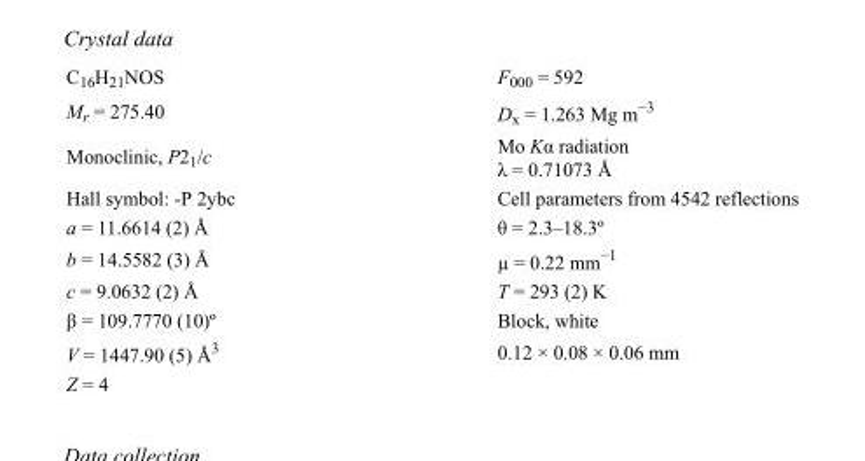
<table><tbody><tr><td>C<sub>16</sub>H<sub>21</sub>NOS</td><td>F<sub>000</sub> = 592</td></tr><tr><td>M<sub>r</sub> = 275.40</td><td>D<sub>x</sub> = 1.263 Mg m<sup>−3</sup></td></tr><tr><td>Monoclinic, P2<sub>1</sub>/c</td><td>Mo Kα radiation λ = 0.71073 Å</td></tr><tr><td>Hall symbol: -P 2ybc</td><td>Cell parameters from 4542 reflections</td></tr><tr><td>a = 11.6614 (2) Å</td><td>θ = 2.3–18.3º</td></tr><tr><td>b = 14.5582 (3) Å</td><td>µ = 0.22 mm<sup>−1</sup></td></tr><tr><td>c = 9.0632 (2) Å</td><td>T = 293 (2) K</td></tr><tr><td>β = 109.7770 (10)º</td><td>Block, white</td></tr><tr><td>V = 1447.90 (5) Å<sup>3</sup></td><td>0.12 × 0.08 × 0.06 mm</td></tr><tr><td>Z = 4</td><td></td></tr></tbody></table>